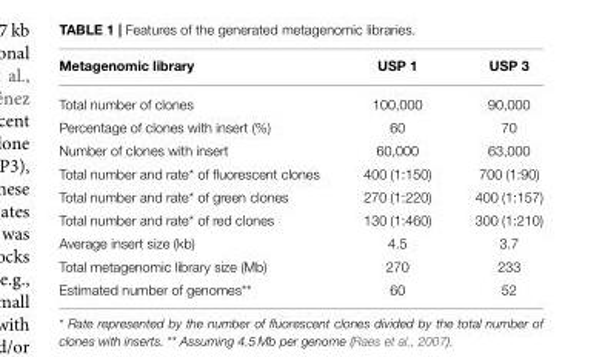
<table><thead><tr><td>Metagenomic library</td><td>USP 1</td><td>USP 3</td></tr></thead><tbody><tr><td>Total number of clones</td><td>100,000</td><td>90,000</td></tr><tr><td>Percentage of clones with insert (%)</td><td>60</td><td>70</td></tr><tr><td>Number of clones with insert</td><td>60,000</td><td>63,000</td></tr><tr><td>Total number and rate* of fluorescent clones</td><td>400 (1:150)</td><td>700 (1:90)</td></tr><tr><td>Total number and rate* of green clones</td><td>270 (1:220)</td><td>400 (1:157)</td></tr><tr><td>Total number and rate* of red clones</td><td>130 (1:460)</td><td>300 (1:210)</td></tr><tr><td>Average insert size (kb)</td><td>4.5</td><td>3.7</td></tr><tr><td>Total metagenomic library size (Mb)</td><td>270</td><td>233</td></tr><tr><td>Estimated number of genomes**</td><td>60</td><td>52</td></tr></tbody></table>